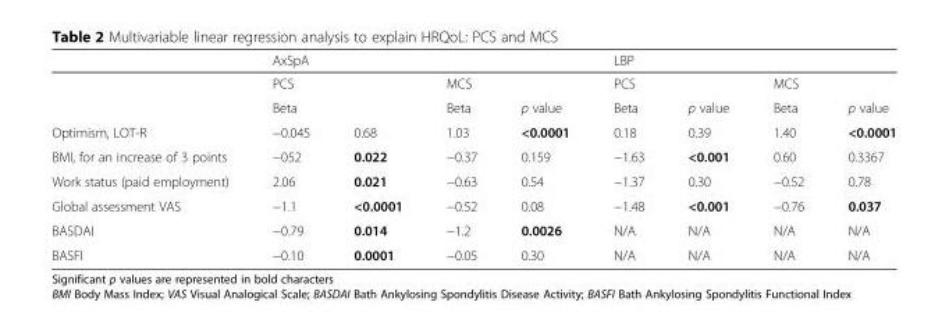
<table><thead><tr><td rowspan="3"></td><td colspan="4">AxSpA</td><td colspan="4">LBP</td></tr><tr><td colspan="2">PCS</td><td colspan="2">MCS</td><td colspan="2">PCS</td><td colspan="2">MCS</td></tr><tr><td>Beta</td><td></td><td>Beta</td><td>p value</td><td>Beta</td><td>p value</td><td>Beta</td><td>p value</td></tr></thead><tbody><tr><td>Optimism, LOT-R</td><td>−0.045</td><td>0.68</td><td>1.03</td><td>&lt;0.0001</td><td>0.18</td><td>0.39</td><td>1.40</td><td>&lt;0.0001</td></tr><tr><td>BMI, for an increase of 3 points</td><td>−052</td><td>0.022</td><td>−0.37</td><td>0.159</td><td>−1.63</td><td>&lt;0.001</td><td>0.60</td><td>0.3367</td></tr><tr><td>Work status (paid employment)</td><td>2.06</td><td>0.021</td><td>−0.63</td><td>0.54</td><td>−1.37</td><td>0.30</td><td>−0.52</td><td>0.78</td></tr><tr><td>Global assessment VAS</td><td>−1.1</td><td>&lt;0.0001</td><td>−0.52</td><td>0.08</td><td>−1.48</td><td>&lt;0.001</td><td>−0.76</td><td>0.037</td></tr><tr><td>BASDAI</td><td>−0.79</td><td>0.014</td><td>−1.2</td><td>0.0026</td><td>N/A</td><td>N/A</td><td>N/A</td><td>N/A</td></tr><tr><td>BASFI</td><td>−0.10</td><td>0.0001</td><td>−0.05</td><td>0.30</td><td>N/A</td><td>N/A</td><td>N/A</td><td>N/A</td></tr></tbody></table>